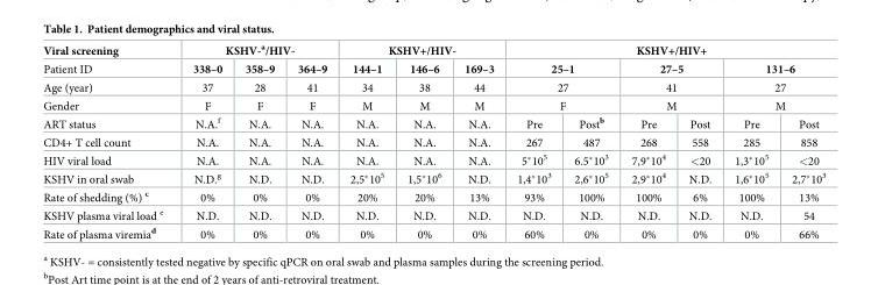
<table><thead><tr><td>Viral screening</td><td colspan="3">KSHV-<sup>a</sup>/HIV-</td><td colspan="3">KSHV+/HIV-</td><td colspan="6">KSHV+/HIV+</td></tr></thead><tbody><tr><td>Patient ID</td><td>338–0</td><td>358–9</td><td>364–9</td><td>144–1</td><td>146–6</td><td>169–3</td><td colspan="2">25–1</td><td colspan="2">27–5</td><td colspan="2">131–6</td></tr><tr><td>Age (year)</td><td>37</td><td>28</td><td>41</td><td>34</td><td>38</td><td>44</td><td colspan="2">27</td><td colspan="2">41</td><td colspan="2">27</td></tr><tr><td>Gender</td><td>F</td><td>F</td><td>F</td><td>M</td><td>M</td><td>M</td><td colspan="2">F</td><td colspan="2">M</td><td colspan="2">M</td></tr><tr><td>ART status</td><td>N.A.<sup>f</sup></td><td>N.A.</td><td>N.A.</td><td>N.A.</td><td>N.A.</td><td>N.A.</td><td>Pre</td><td>Post<sup>b</sup></td><td>Pre</td><td>Post</td><td>Pre</td><td>Post</td></tr><tr><td>CD4+ T cell count</td><td>N.A.</td><td>N.A.</td><td>N.A.</td><td>N.A.</td><td>N.A.</td><td>N.A.</td><td>267</td><td>487</td><td>268</td><td>558</td><td>285</td><td>858</td></tr><tr><td>HIV viral load</td><td>N.A.</td><td>N.A.</td><td>N.A.</td><td>N.A.</td><td>N.A.</td><td>N.A.</td><td>5*10<sup>5</sup></td><td>6.5*10<sup>3</sup></td><td>7,9*10<sup>4</sup></td><td>&lt;20</td><td>1,3*10<sup>5</sup></td><td>&lt;20</td></tr><tr><td>KSHV in oral swab</td><td>N.D.<sup>g</sup></td><td>N.D.</td><td>N.D.</td><td>2,5*10<sup>5</sup></td><td>1,5*10<sup>6</sup></td><td>N.D.</td><td>1,4*10<sup>3</sup></td><td>2,6*10<sup>5</sup></td><td>2,9*10<sup>4</sup></td><td>N.D.</td><td>1,6*10<sup>5</sup></td><td>2,7*10<sup>3</sup></td></tr><tr><td>Rate of shedding (%) <sup>c</sup></td><td>0%</td><td>0%</td><td>0%</td><td>20%</td><td>20%</td><td>13%</td><td>93%</td><td>100%</td><td>100%</td><td>6%</td><td>100%</td><td>13%</td></tr><tr><td>KSHV plasma viral load <sup>e</sup></td><td>N.D.</td><td>N.D.</td><td>N.D.</td><td>N.D.</td><td>N.D.</td><td>N.D.</td><td>N.D.</td><td>N.D.</td><td>N.D.</td><td>N.D.</td><td>N.D.</td><td>54</td></tr><tr><td>Rate of plasma viremia<sup>d</sup></td><td>0%</td><td>0%</td><td>0%</td><td>0%</td><td>0%</td><td>0%</td><td>60%</td><td>0%</td><td>0%</td><td>0%</td><td>0%</td><td>66%</td></tr></tbody></table>